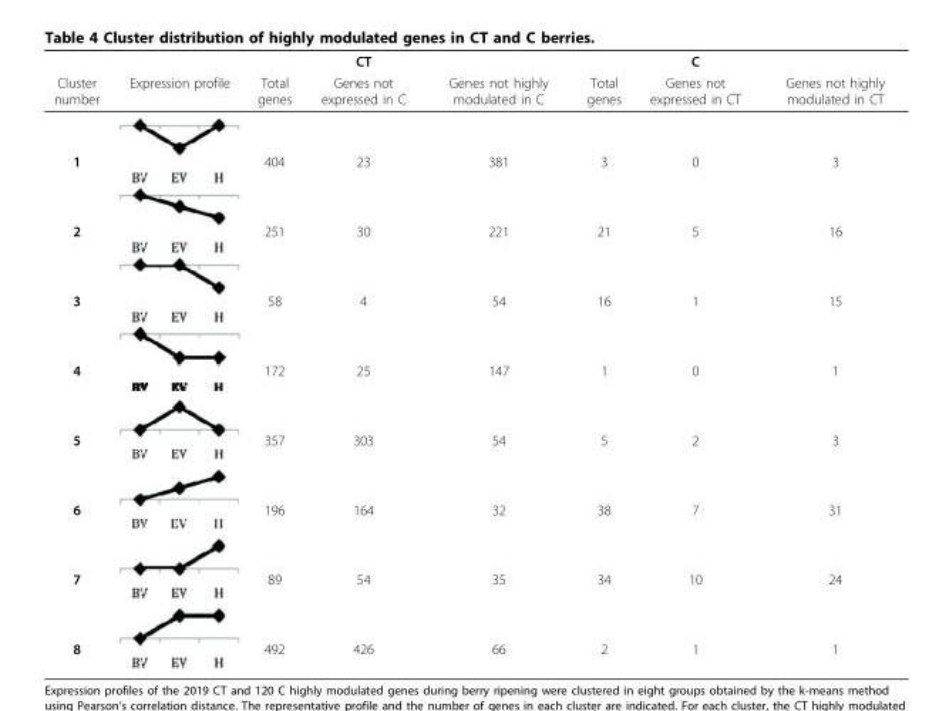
<table><thead><tr><td></td><td></td><td></td><td>CT</td><td></td><td></td><td>C</td><td></td></tr></thead><tbody><tr><td>Cluster number</td><td>Expression profile</td><td>Total genes</td><td>Genes not expressed in C</td><td>Genes not highly modulated in C</td><td>Total genes</td><td>Genes not expressed in CT</td><td>Genes not highly modulated in CT</td></tr><tr><td>1</td><td></td><td>404</td><td>23</td><td>381</td><td>3</td><td>0</td><td>3</td></tr><tr><td>2</td><td></td><td>251</td><td>30</td><td>221</td><td>21</td><td>5</td><td>16</td></tr><tr><td>3</td><td></td><td>58</td><td>4</td><td>54</td><td>16</td><td>1</td><td>15</td></tr><tr><td>4</td><td></td><td>172</td><td>25</td><td>147</td><td>1</td><td>0</td><td>1</td></tr><tr><td>5</td><td></td><td>357</td><td>303</td><td>54</td><td>5</td><td>2</td><td>3</td></tr><tr><td>6</td><td></td><td>196</td><td>164</td><td>32</td><td>38</td><td>7</td><td>31</td></tr><tr><td>7</td><td></td><td>89</td><td>54</td><td>35</td><td>34</td><td>10</td><td>24</td></tr><tr><td>8</td><td></td><td>492</td><td>426</td><td>66</td><td>2</td><td>1</td><td>1</td></tr></tbody></table>